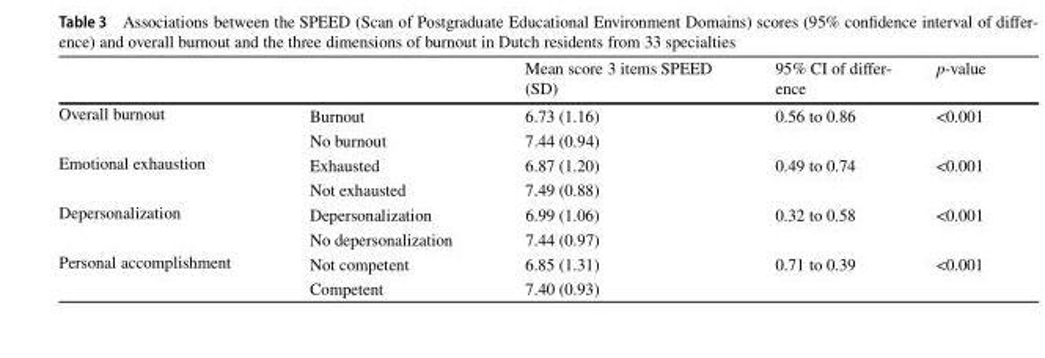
<table><thead><tr><td></td><td></td><td>Mean score 3 items SPEED (SD)</td><td>95% CI of differ- ence</td><td>p-value</td></tr></thead><tbody><tr><td rowspan="2">Overall burnout</td><td>Burnout</td><td>6.73 (1.16)</td><td>0.56 to 0.86</td><td>&lt;0.001</td></tr><tr><td>No burnout</td><td>7.44 (0.94)</td><td></td><td></td></tr><tr><td rowspan="2">Emotional exhaustion</td><td>Exhausted</td><td>6.87 (1.20)</td><td>0.49 to 0.74</td><td>&lt;0.001</td></tr><tr><td>Not exhausted</td><td>7.49 (0.88)</td><td></td><td></td></tr><tr><td rowspan="2">Depersonalization</td><td>Depersonalization</td><td>6.99 (1.06)</td><td>0.32 to 0.58</td><td>&lt;0.001</td></tr><tr><td>No depersonalization</td><td>7.44 (0.97)</td><td></td><td></td></tr><tr><td rowspan="2">Personal accomplishment</td><td>Not competent</td><td>6.85 (1.31)</td><td>0.71 to 0.39</td><td>&lt;0.001</td></tr><tr><td>Competent</td><td>7.40 (0.93)</td><td></td><td></td></tr></tbody></table>